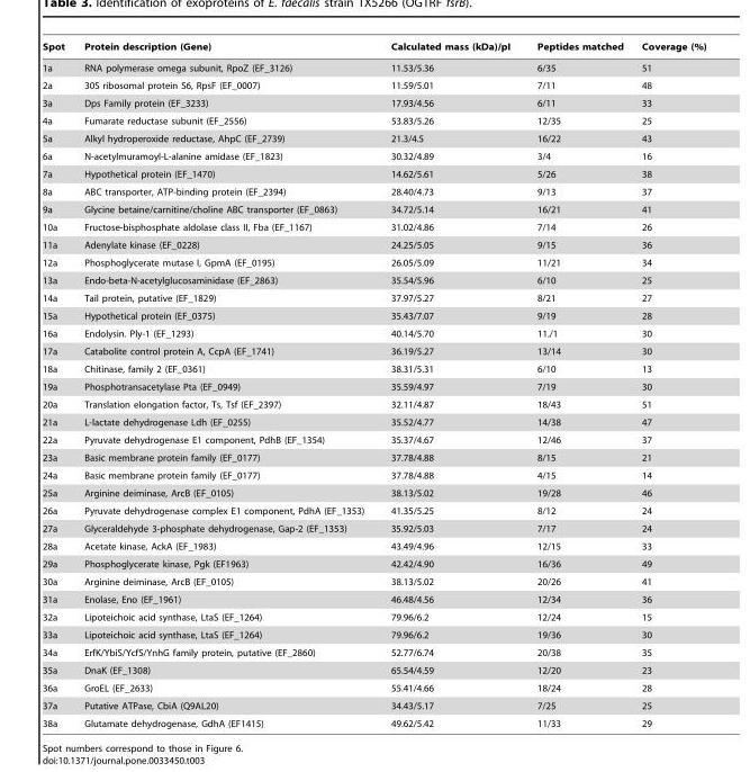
<table><thead><tr><td>Spot</td><td>Protein description (Gene)</td><td>Calculated mass (kDa)/pI</td><td>Peptides matched</td><td>Coverage (%)</td></tr></thead><tbody><tr><td>1a</td><td>RNA polymerase omega subunit, RpoZ (EF_3126)</td><td>11.53/5.36</td><td>6/35</td><td>51</td></tr><tr><td>2a</td><td>30S ribosomal protein S6, RpsF (EF_0007)</td><td>11.59/5.01</td><td>7/11</td><td>48</td></tr><tr><td>3a</td><td>Dps Family protein (EF_3233)</td><td>17.93/4.56</td><td>6/11</td><td>33</td></tr><tr><td>4a</td><td>Fumarate reductase subunit (EF_2556)</td><td>53.83/5.26</td><td>12/35</td><td>25</td></tr><tr><td>5a</td><td>Alkyl hydroperoxide reductase, AhpC (EF_2739)</td><td>21.3/4.5</td><td>16/22</td><td>43</td></tr><tr><td>6a</td><td>N-acetylmuramoyl-L-alanine amidase (EF_1823)</td><td>30.32/4.89</td><td>3/4</td><td>16</td></tr><tr><td>7a</td><td>Hypothetical protein (EF_1470)</td><td>14.62/5.61</td><td>5/26</td><td>38</td></tr><tr><td>8a</td><td>ABC transporter, ATP-binding protein (EF_2394)</td><td>28.40/4.73</td><td>9/13</td><td>37</td></tr><tr><td>9a</td><td>Glycine betaine/carnitine/choline ABC transporter (EF_0863)</td><td>34.72/5.14</td><td>16/21</td><td>41</td></tr><tr><td>10a</td><td>Fructose-bisphosphate aldolase class II, Fba (EF_1167)</td><td>31.02/4.86</td><td>7/14</td><td>26</td></tr><tr><td>11a</td><td>Adenylate kinase (EF_0228)</td><td>24.25/5.05</td><td>9/15</td><td>36</td></tr><tr><td>12a</td><td>Phosphoglycerate mutase I, GpmA (EF_0195)</td><td>26.05/5.09</td><td>11/21</td><td>34</td></tr><tr><td>13a</td><td>Endo-beta-N-acetylglucosaminidase (EF_2863)</td><td>35.54/5.96</td><td>6/10</td><td>25</td></tr><tr><td>14a</td><td>Tail protein, putative (EF_1829)</td><td>37.97/5.27</td><td>8/21</td><td>27</td></tr><tr><td>15a</td><td>Hypothetical protein (EF_0375)</td><td>35.43/7.07</td><td>9/19</td><td>28</td></tr><tr><td>16a</td><td>Endolysin. Ply-1 (EF_1293)</td><td>40.14/5.70</td><td>11./1</td><td>30</td></tr><tr><td>17a</td><td>Catabolite control protein A, CcpA (EF_1741)</td><td>36.19/5.27</td><td>13/14</td><td>30</td></tr><tr><td>18a</td><td>Chitinase, family 2 (EF_0361)</td><td>38.31/5.31</td><td>6/10</td><td>13</td></tr><tr><td>19a</td><td>Phosphotransacetylase Pta (EF_0949)</td><td>35.59/4.97</td><td>7/19</td><td>30</td></tr><tr><td>20a</td><td>Translation elongation factor, Ts, Tsf (EF_2397)</td><td>32.11/4.87</td><td>18/43</td><td>51</td></tr><tr><td>21a</td><td>L-lactate dehydrogenase Ldh (EF_0255)</td><td>35.52/4.77</td><td>14/38</td><td>47</td></tr><tr><td>22a</td><td>Pyruvate dehydrogenase E1 component, PdhB (EF_1354)</td><td>35.37/4.67</td><td>12/46</td><td>37</td></tr><tr><td>23a</td><td>Basic membrane protein family (EF_0177)</td><td>37.78/4.88</td><td>8/15</td><td>21</td></tr><tr><td>24a</td><td>Basic membrane protein family (EF_0177)</td><td>37.78/4.88</td><td>4/15</td><td>14</td></tr><tr><td>25a</td><td>Arginine deiminase, ArcB (EF_0105)</td><td>38.13/5.02</td><td>19/28</td><td>46</td></tr><tr><td>26a</td><td>Pyruvate dehydrogenase complex E1 component, PdhA (EF_1353)</td><td>41.35/5.25</td><td>8/12</td><td>24</td></tr><tr><td>27a</td><td>Glyceraldehyde 3-phosphate dehydrogenase, Gap-2 (EF_1353)</td><td>35.92/5.03</td><td>7/17</td><td>24</td></tr><tr><td>28a</td><td>Acetate kinase, AckA (EF_1983)</td><td>43.49/4.96</td><td>12/15</td><td>33</td></tr><tr><td>29a</td><td>Phosphoglycerate kinase, Pgk (EF1963)</td><td>42.42/4.90</td><td>16/36</td><td>49</td></tr><tr><td>30a</td><td>Arginine deiminase, ArcB (EF_0105)</td><td>38.13/5.02</td><td>20/26</td><td>41</td></tr><tr><td>31a</td><td>Enolase, Eno (EF_1961)</td><td>46.48/4.56</td><td>12/34</td><td>36</td></tr><tr><td>32a</td><td>Lipoteichoic acid synthase, LtaS (EF_1264)</td><td>79.96/6.2</td><td>12/24</td><td>15</td></tr><tr><td>33a</td><td>Lipoteichoic acid synthase, LtaS (EF_1264)</td><td>79.96/6.2</td><td>19/36</td><td>30</td></tr><tr><td>34a</td><td>ErfK/YbiS/YcfS/YnhG family protein, putative (EF_2860)</td><td>52.77/6.74</td><td>20/38</td><td>35</td></tr><tr><td>35a</td><td>DnaK (EF_1308)</td><td>65.54/4.59</td><td>12/20</td><td>23</td></tr><tr><td>36a</td><td>GroEL (EF_2633)</td><td>55.41/4.66</td><td>18/24</td><td>28</td></tr><tr><td>37a</td><td>Putative ATPase, CbiA (Q9AL20)</td><td>34.43/5.17</td><td>7/25</td><td>25</td></tr><tr><td>38a</td><td>Glutamate dehydrogenase, GdhA (EF1415)</td><td>49.62/5.42</td><td>11/33</td><td>29</td></tr></tbody></table>